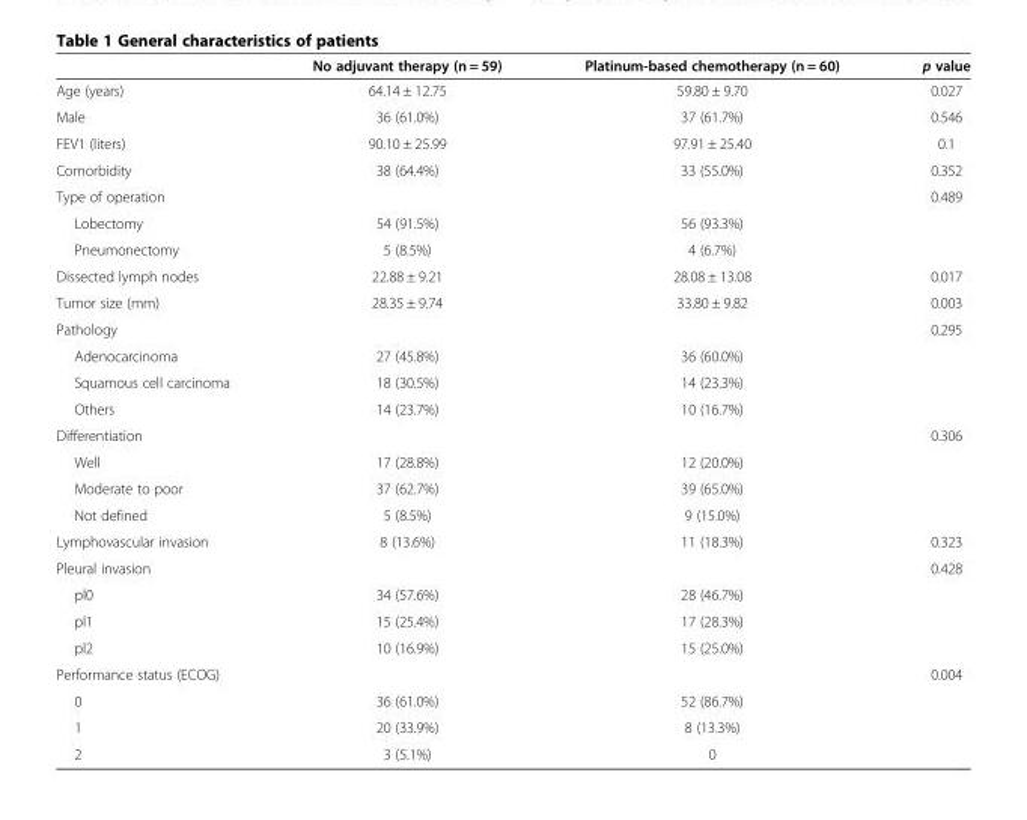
<table><thead><tr><td></td><td>No adjuvant therapy (n = 59)</td><td>Platinum-based chemotherapy (n = 60)</td><td>p value</td></tr></thead><tbody><tr><td>Age (years)</td><td>64.14 ± 12.75</td><td>59.80 ± 9.70</td><td>0.027</td></tr><tr><td>Male</td><td>36 (61.0%)</td><td>37 (61.7%)</td><td>0.546</td></tr><tr><td>FEV1 (liters)</td><td>90.10 ± 25.99</td><td>97.91 ± 25.40</td><td>0.1</td></tr><tr><td>Comorbidity</td><td>38 (64.4%)</td><td>33 (55.0%)</td><td>0.352</td></tr><tr><td>Type of operation</td><td></td><td></td><td>0.489</td></tr><tr><td>Lobectomy</td><td>54 (91.5%)</td><td>56 (93.3%)</td><td></td></tr><tr><td>Pneumonectomy</td><td>5 (8.5%)</td><td>4 (6.7%)</td><td></td></tr><tr><td>Dissected lymph nodes</td><td>22.88 ± 9.21</td><td>28.08 ± 13.08</td><td>0.017</td></tr><tr><td>Tumor size (mm)</td><td>28.35 ± 9.74</td><td>33.80 ± 9.82</td><td>0.003</td></tr><tr><td>Pathology</td><td></td><td></td><td>0.295</td></tr><tr><td>Adenocarcinoma</td><td>27 (45.8%)</td><td>36 (60.0%)</td><td></td></tr><tr><td>Squamous cell carcinoma</td><td>18 (30.5%)</td><td>14 (23.3%)</td><td></td></tr><tr><td>Others</td><td>14 (23.7%)</td><td>10 (16.7%)</td><td></td></tr><tr><td>Differentiation</td><td></td><td></td><td>0.306</td></tr><tr><td>Well</td><td>17 (28.8%)</td><td>12 (20.0%)</td><td></td></tr><tr><td>Moderate to poor</td><td>37 (62.7%)</td><td>39 (65.0%)</td><td></td></tr><tr><td>Not defined</td><td>5 (8.5%)</td><td>9 (15.0%)</td><td></td></tr><tr><td>Lymphovascular invasion</td><td>8 (13.6%)</td><td>11 (18.3%)</td><td>0.323</td></tr><tr><td>Pleural invasion</td><td></td><td></td><td>0.428</td></tr><tr><td>pl0</td><td>34 (57.6%)</td><td>28 (46.7%)</td><td></td></tr><tr><td>pl1</td><td>15 (25.4%)</td><td>17 (28.3%)</td><td></td></tr><tr><td>pl2</td><td>10 (16.9%)</td><td>15 (25.0%)</td><td></td></tr><tr><td>Performance status (ECOG)</td><td></td><td></td><td>0.004</td></tr><tr><td>0</td><td>36 (61.0%)</td><td>52 (86.7%)</td><td></td></tr><tr><td>1</td><td>20 (33.9%)</td><td>8 (13.3%)</td><td></td></tr><tr><td>2</td><td>3 (5.1%)</td><td>0</td><td></td></tr></tbody></table>